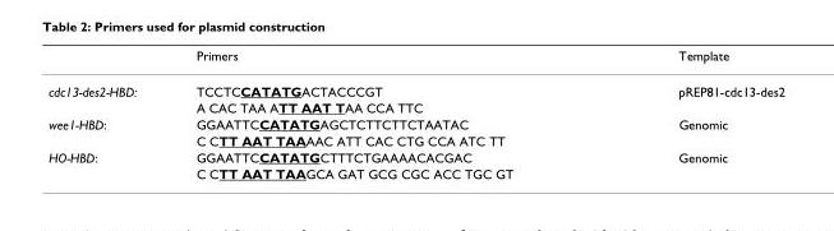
<table><thead><tr><td></td><td>Primers</td><td>Template</td></tr></thead><tbody><tr><td rowspan="2">cdc13-des2-HBD:</td><td>TCCTCCATATGACTACCCGT</td><td>pREP81-cdc13-des2</td></tr><tr><td>A CAC TAA ATT AAT TAA CCA TTC</td><td></td></tr><tr><td rowspan="2">wee1-HBD:</td><td>GGAATTCCATATGAGCTCTTCTTCTAATAC</td><td>Genomic</td></tr><tr><td>C CTT AAT TAAAAC ATT CAC CTG CCA ATC TT</td><td></td></tr><tr><td rowspan="2">HO-HBD:</td><td>GGAATTCCATATGCTTTCTGAAAACACGAC</td><td>Genomic</td></tr><tr><td>C CTT AAT TAAGCA GAT GCG CGC ACC TGC GT</td><td></td></tr></tbody></table>